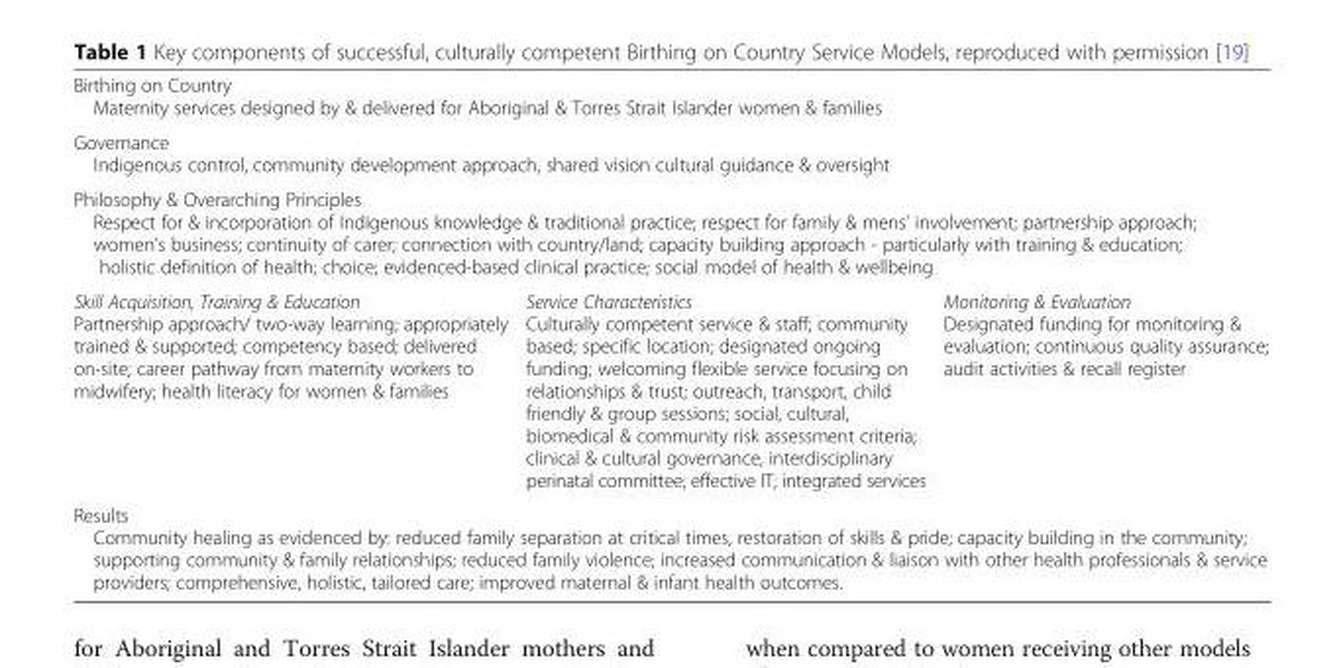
<table><tbody><tr><td colspan="3">Birthing on Country Maternity services designed by &amp; delivered for Aboriginal &amp; Torres Strait Islander women &amp; families</td></tr><tr><td colspan="3">Governance Indigenous control, community development approach, shared vision cultural guidance &amp; oversight</td></tr><tr><td colspan="3">Philosophy &amp; Overarching Principles Respect for &amp; incorporation of Indigenous knowledge &amp; traditional practice; respect for family &amp; mens’ involvement; partnership approach; women’s business; continuity of carer; connection with country/land; capacity building approach - particularly with training &amp; education; holistic definition of health; choice; evidenced-based clinical practice; social model of health &amp; wellbeing</td></tr><tr><td>Skill Acquisition, Training &amp; Education Partnership approach/ two-way learning; appropriately trained &amp; supported; competency based; delivered on-site; career pathway from maternity workers to midwifery; health literacy for women &amp; families</td><td>Service Characteristics Culturally competent service &amp; staff; community based; specific location; designated ongoing funding; welcoming flexible service focusing on relationships &amp; trust; outreach, transport, child friendly &amp; group sessions; social, cultural, biomedical &amp; community risk assessment criteria; clinical &amp; cultural governance, interdisciplinary perinatal committee; effective IT; integrated services</td><td>Monitoring &amp; Evaluation Designated funding for monitoring &amp; evaluation; continuous quality assurance; audit activities &amp; recall register</td></tr><tr><td colspan="3">Results Community healing as evidenced by: reduced family separation at critical times, restoration of skills &amp; pride; capacity building in the community; supporting community &amp; family relationships; reduced family violence; increased communication &amp; liaison with other health professionals &amp; service providers; comprehensive, holistic, tailored care; improved maternal &amp; infant health outcomes.</td></tr></tbody></table>